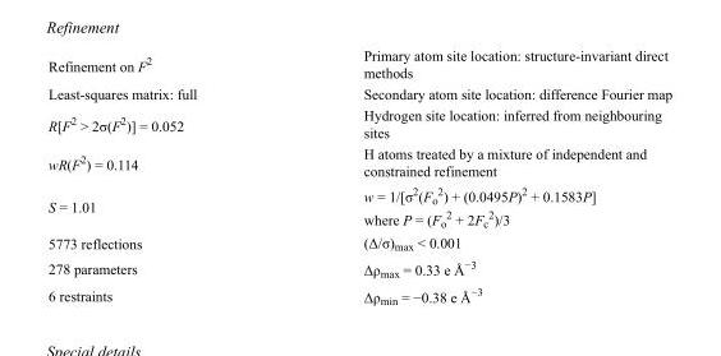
<table><tbody><tr><td>Refinement on F<sup>2</sup></td><td>Primary atom site location: structure-invariant direct methods</td></tr><tr><td>Least-squares matrix: full</td><td>Secondary atom site location: difference Fourier map</td></tr><tr><td>R[F<sup>2</sup> &gt; 2σ(F<sup>2</sup>)] = 0.052</td><td>Hydrogen site location: inferred from neighbouring sites</td></tr><tr><td>wR(F<sup>2</sup>) = 0.114</td><td>H atoms treated by a mixture of independent and constrained refinement</td></tr><tr><td>S = 1.01</td><td>w = 1/[σ<sup>2</sup>(F<sub>o</sub> <sup>2</sup>) + (0.0495P)<sup>2</sup> + 0.1583P] where P = (F<sub>o</sub> <sup>2</sup> + 2F<sub>c</sub> <sup>2</sup>)/3</td></tr><tr><td>5773 reflections</td><td>(Δ/σ)<sub>max</sub> &lt; 0.001</td></tr><tr><td>278 parameters</td><td>Δρ<sub>max</sub> = 0.33 e Å<sup>−3</sup></td></tr><tr><td>6 restraints</td><td>Δρ<sub>min</sub> = −0.38 e Å<sup>−3</sup></td></tr></tbody></table>